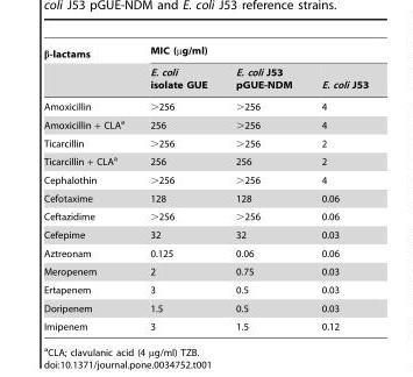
<table><thead><tr><td rowspan="2">β-lactams</td><td colspan="3">MIC (µg/ml)</td></tr><tr><td>E. coli isolate GUE</td><td>E. coli J53 pGUE-NDM</td><td>E. coli J53</td></tr></thead><tbody><tr><td>Amoxicillin</td><td>&gt;256</td><td>&gt;256</td><td>4</td></tr><tr><td>Amoxicillin + CLA<sup>a</sup></td><td>256</td><td>&gt;256</td><td>4</td></tr><tr><td>Ticarcillin</td><td>&gt;256</td><td>&gt;256</td><td>2</td></tr><tr><td>Ticarcillin + CLA<sup>a</sup></td><td>256</td><td>256</td><td>2</td></tr><tr><td>Cephalothin</td><td>&gt;256</td><td>&gt;256</td><td>4</td></tr><tr><td>Cefotaxime</td><td>128</td><td>128</td><td>0.06</td></tr><tr><td>Ceftazidime</td><td>&gt;256</td><td>&gt;256</td><td>0.06</td></tr><tr><td>Cefepime</td><td>32</td><td>32</td><td>0.03</td></tr><tr><td>Aztreonam</td><td>0.125</td><td>0.06</td><td>0.06</td></tr><tr><td>Meropenem</td><td>2</td><td>0.75</td><td>0.03</td></tr><tr><td>Ertapenem</td><td>3</td><td>0.5</td><td>0.03</td></tr><tr><td>Doripenem</td><td>1.5</td><td>0.5</td><td>0.03</td></tr><tr><td>Imipenem</td><td>3</td><td>1.5</td><td>0.12</td></tr></tbody></table>